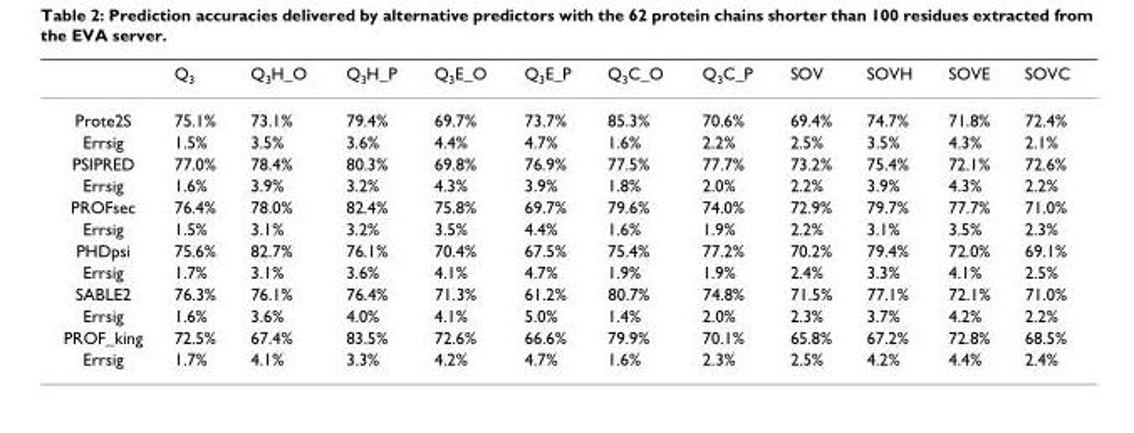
<table><thead><tr><td></td><td>Q<sub>3</sub></td><td>Q<sub>3</sub>H_O</td><td>Q<sub>3</sub>H_P</td><td>Q<sub>3</sub>E_O</td><td>Q<sub>3</sub>E_P</td><td>Q<sub>3</sub>C_O</td><td>Q<sub>3</sub>C_P</td><td>SOV</td><td>SOVH</td><td>SOVE</td><td>SOVC</td></tr></thead><tbody><tr><td>Prote2S</td><td>75.1%</td><td>73.1%</td><td>79.4%</td><td>69.7%</td><td>73.7%</td><td>85.3%</td><td>70.6%</td><td>69.4%</td><td>74.7%</td><td>71.8%</td><td>72.4%</td></tr><tr><td>Errsig</td><td>1.5%</td><td>3.5%</td><td>3.6%</td><td>4.4%</td><td>4.7%</td><td>1.6%</td><td>2.2%</td><td>2.5%</td><td>3.5%</td><td>4.3%</td><td>2.1%</td></tr><tr><td>PSIPRED</td><td>77.0%</td><td>78.4%</td><td>80.3%</td><td>69.8%</td><td>76.9%</td><td>77.5%</td><td>77.7%</td><td>73.2%</td><td>75.4%</td><td>72.1%</td><td>72.6%</td></tr><tr><td>Errsig</td><td>1.6%</td><td>3.9%</td><td>3.2%</td><td>4.3%</td><td>3.9%</td><td>1.8%</td><td>2.0%</td><td>2.2%</td><td>3.9%</td><td>4.3%</td><td>2.2%</td></tr><tr><td>PROFsec</td><td>76.4%</td><td>78.0%</td><td>82.4%</td><td>75.8%</td><td>69.7%</td><td>79.6%</td><td>74.0%</td><td>72.9%</td><td>79.7%</td><td>77.7%</td><td>71.0%</td></tr><tr><td>Errsig</td><td>1.5%</td><td>3.1%</td><td>3.2%</td><td>3.5%</td><td>4.4%</td><td>1.6%</td><td>1.9%</td><td>2.2%</td><td>3.1%</td><td>3.5%</td><td>2.3%</td></tr><tr><td>PHDpsi</td><td>75.6%</td><td>82.7%</td><td>76.1%</td><td>70.4%</td><td>67.5%</td><td>75.4%</td><td>77.2%</td><td>70.2%</td><td>79.4%</td><td>72.0%</td><td>69.1%</td></tr><tr><td>Errsig</td><td>1.7%</td><td>3.1%</td><td>3.6%</td><td>4.1%</td><td>4.7%</td><td>1.9%</td><td>1.9%</td><td>2.4%</td><td>3.3%</td><td>4.1%</td><td>2.5%</td></tr><tr><td>SABLE2</td><td>76.3%</td><td>76.1%</td><td>76.4%</td><td>71.3%</td><td>61.2%</td><td>80.7%</td><td>74.8%</td><td>71.5%</td><td>77.1%</td><td>72.1%</td><td>71.0%</td></tr><tr><td>Errsig</td><td>1.6%</td><td>3.6%</td><td>4.0%</td><td>4.1%</td><td>5.0%</td><td>1.4%</td><td>2.0%</td><td>2.3%</td><td>3.7%</td><td>4.2%</td><td>2.2%</td></tr><tr><td>PROF_king</td><td>72.5%</td><td>67.4%</td><td>83.5%</td><td>72.6%</td><td>66.6%</td><td>79.9%</td><td>70.1%</td><td>65.8%</td><td>67.2%</td><td>72.8%</td><td>68.5%</td></tr><tr><td>Errsig</td><td>1.7%</td><td>4.1%</td><td>3.3%</td><td>4.2%</td><td>4.7%</td><td>1.6%</td><td>2.3%</td><td>2.5%</td><td>4.2%</td><td>4.4%</td><td>2.4%</td></tr></tbody></table>